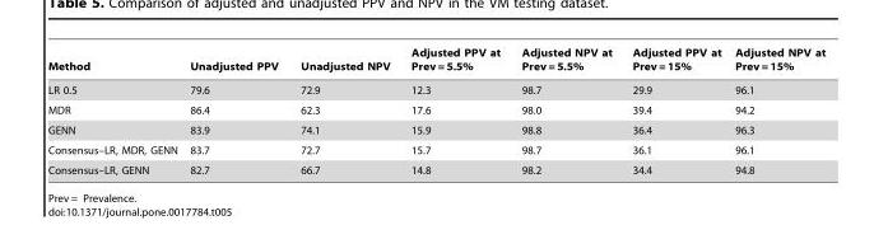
<table><thead><tr><td>Method</td><td>Unadjusted PPV</td><td>Unadjusted NPV</td><td>Adjusted PPV at Prev = 5.5%</td><td>Adjusted NPV at Prev = 5.5%</td><td>Adjusted PPV at Prev = 15%</td><td>Adjusted NPV at Prev = 15%</td></tr></thead><tbody><tr><td>LR 0.5</td><td>79.6</td><td>72.9</td><td>12.3</td><td>98.7</td><td>29.9</td><td>96.1</td></tr><tr><td>MDR</td><td>86.4</td><td>62.3</td><td>17.6</td><td>98.0</td><td>39.4</td><td>94.2</td></tr><tr><td>GENN</td><td>83.9</td><td>74.1</td><td>15.9</td><td>98.8</td><td>36.4</td><td>96.3</td></tr><tr><td>Consensus–LR, MDR, GENN</td><td>83.7</td><td>72.7</td><td>15.7</td><td>98.7</td><td>36.1</td><td>96.1</td></tr><tr><td>Consensus–LR, GENN</td><td>82.7</td><td>66.7</td><td>14.8</td><td>98.2</td><td>34.4</td><td>94.8</td></tr></tbody></table>